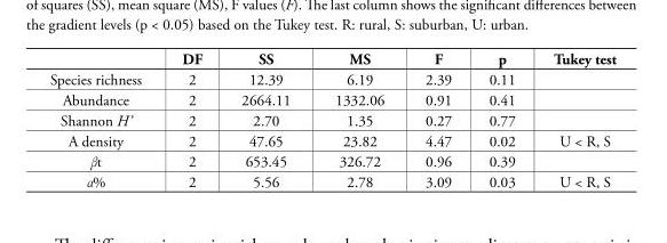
<table><thead><tr><td></td><td>DF</td><td>SS</td><td>MS</td><td>F</td><td>p</td><td>Tukey test</td></tr></thead><tbody><tr><td>Species richness</td><td>2</td><td>12.39</td><td>6.19</td><td>2.39</td><td>0.11</td><td></td></tr><tr><td>Abundance</td><td>2</td><td>2664.11</td><td>1332.06</td><td>0.91</td><td>0.41</td><td></td></tr><tr><td>Shannon H’</td><td>2</td><td>2.70</td><td>1.35</td><td>0.27</td><td>0.77</td><td></td></tr><tr><td>A density</td><td>2</td><td>47.65</td><td>23.82</td><td>4.47</td><td>0.02</td><td>U &lt; R, S</td></tr><tr><td>βt</td><td>2</td><td>653.45</td><td>326.72</td><td>0.96</td><td>0.39</td><td></td></tr><tr><td>α%</td><td>2</td><td>5.56</td><td>2.78</td><td>3.09</td><td>0.03</td><td>U &lt; R, S</td></tr></tbody></table>